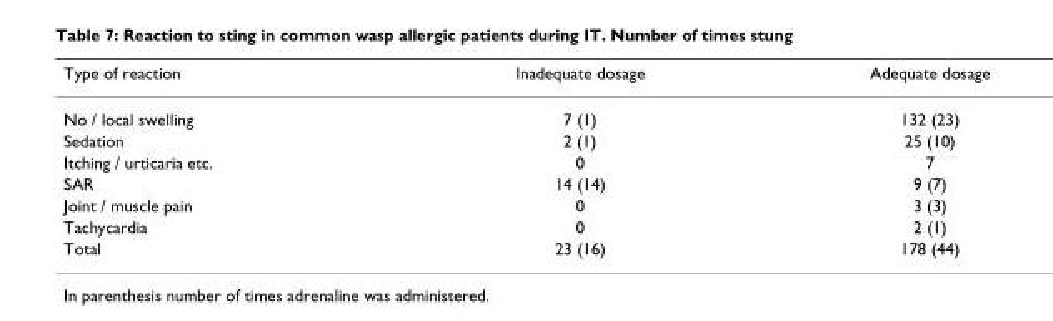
<table><thead><tr><td>Type of reaction</td><td>Inadequate dosage</td><td>Adequate dosage</td></tr></thead><tbody><tr><td>No / local swelling</td><td>7 (1)</td><td>132 (23)</td></tr><tr><td>Sedation</td><td>2 (1)</td><td>25 (10)</td></tr><tr><td>Itching / urticaria etc.</td><td>0</td><td>7</td></tr><tr><td>SAR</td><td>14 (14)</td><td>9 (7)</td></tr><tr><td>Joint / muscle pain</td><td>0</td><td>3 (3)</td></tr><tr><td>Tachycardia</td><td>0</td><td>2 (1)</td></tr><tr><td>Total</td><td>23 (16)</td><td>178 (44)</td></tr></tbody></table>